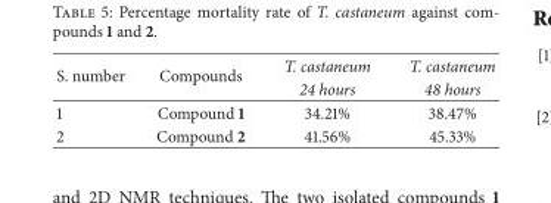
<table><thead><tr><td rowspan="2">S. number</td><td rowspan="2">Compounds</td><td rowspan="2">T. castaneum 24 hours</td><td rowspan="2">T. castaneum 48 hours</td></tr><tr></tr></thead><tbody><tr><td>1</td><td>Compound 1</td><td>34.21%</td><td>38.47%</td></tr><tr><td>2</td><td>Compound 2</td><td>41.56%</td><td>45.33%</td></tr></tbody></table>